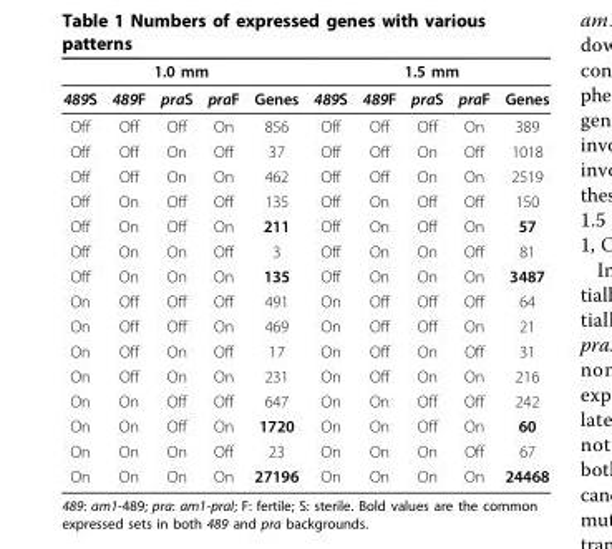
<table><thead><tr><td colspan="5">1.0 mm</td><td colspan="5">1.5 mm</td></tr><tr><td>489S</td><td>489F</td><td>praS</td><td>praF</td><td>Genes</td><td>489S</td><td>489F</td><td>praS</td><td>praF</td><td>Genes</td></tr></thead><tbody><tr><td>Off</td><td>Off</td><td>Off</td><td>On</td><td>856</td><td>Off</td><td>Off</td><td>Off</td><td>On</td><td>389</td></tr><tr><td>Off</td><td>Off</td><td>On</td><td>Off</td><td>37</td><td>Off</td><td>Off</td><td>On</td><td>Off</td><td>1018</td></tr><tr><td>Off</td><td>Off</td><td>On</td><td>On</td><td>462</td><td>Off</td><td>Off</td><td>On</td><td>On</td><td>2519</td></tr><tr><td>Off</td><td>On</td><td>Off</td><td>Off</td><td>135</td><td>Off</td><td>On</td><td>Off</td><td>Off</td><td>150</td></tr><tr><td>Off</td><td>On</td><td>Off</td><td>On</td><td>211</td><td>Off</td><td>On</td><td>Off</td><td>On</td><td>57</td></tr><tr><td>Off</td><td>On</td><td>On</td><td>Off</td><td>3</td><td>Off</td><td>On</td><td>On</td><td>Off</td><td>81</td></tr><tr><td>Off</td><td>On</td><td>On</td><td>On</td><td>135</td><td>Off</td><td>On</td><td>On</td><td>On</td><td>3487</td></tr><tr><td>On</td><td>Off</td><td>Off</td><td>Off</td><td>491</td><td>On</td><td>Off</td><td>Off</td><td>Off</td><td>64</td></tr><tr><td>On</td><td>Off</td><td>Off</td><td>On</td><td>469</td><td>On</td><td>Off</td><td>Off</td><td>On</td><td>21</td></tr><tr><td>On</td><td>Off</td><td>On</td><td>Off</td><td>17</td><td>On</td><td>Off</td><td>On</td><td>Off</td><td>31</td></tr><tr><td>On</td><td>Off</td><td>On</td><td>On</td><td>231</td><td>On</td><td>Off</td><td>On</td><td>On</td><td>216</td></tr><tr><td>On</td><td>On</td><td>Off</td><td>Off</td><td>647</td><td>On</td><td>On</td><td>Off</td><td>Off</td><td>242</td></tr><tr><td>On</td><td>On</td><td>Off</td><td>On</td><td>1720</td><td>On</td><td>On</td><td>Off</td><td>On</td><td>60</td></tr><tr><td>On</td><td>On</td><td>On</td><td>Off</td><td>23</td><td>On</td><td>On</td><td>On</td><td>Off</td><td>67</td></tr><tr><td>On</td><td>On</td><td>On</td><td>On</td><td>27196</td><td>On</td><td>On</td><td>On</td><td>On</td><td>24468</td></tr></tbody></table>